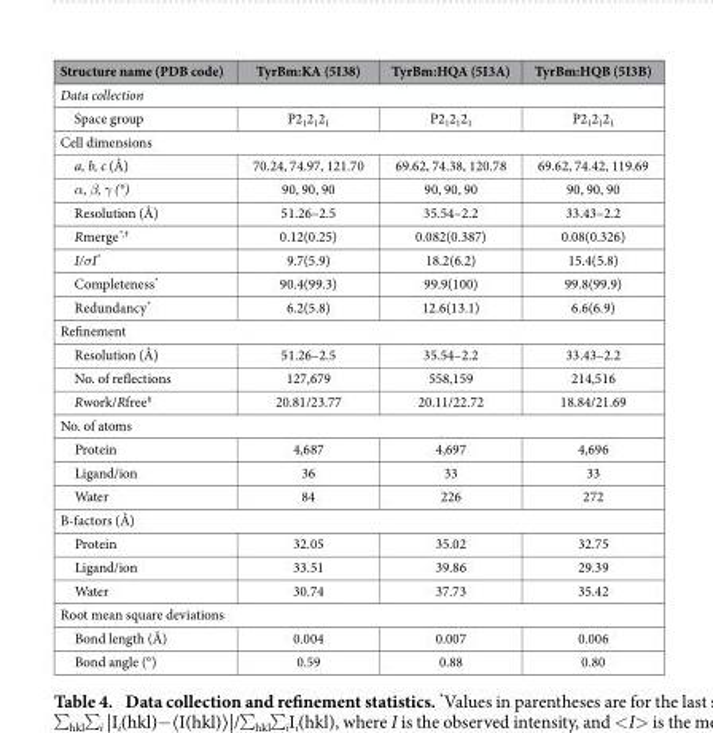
<table><thead><tr><td>Structure name (PDB code)</td><td>TyrBm:KA (5I38)</td><td>TyrBm:HQA (5I3A)</td><td>TyrBm:HQB (5I3B)</td></tr></thead><tbody><tr><td colspan="4">Data collection</td></tr><tr><td>Space group</td><td>P2<sub>1</sub>2<sub>1</sub>2<sub>1</sub></td><td>P2<sub>1</sub>2<sub>1</sub>2<sub>1</sub></td><td>P2<sub>1</sub>2<sub>1</sub>2<sub>1</sub></td></tr><tr><td colspan="4">Cell dimensions</td></tr><tr><td>a, b, c (Å)</td><td>70.24, 74.97, 121.70</td><td>69.62, 74.38, 120.78</td><td>69.62, 74.42, 119.69</td></tr><tr><td>α, β, γ (°)</td><td>90, 90, 90</td><td>90, 90, 90</td><td>90, 90, 90</td></tr><tr><td>Resolution (Å)</td><td>51.26–2.5</td><td>35.54–2.2</td><td>33.43–2.2</td></tr><tr><td>Rmerge*,†</td><td>0.12(0.25)</td><td>0.082(0.387)</td><td>0.08(0.326)</td></tr><tr><td>I/σI*</td><td>9.7(5.9)</td><td>18.2(6.2)</td><td>15.4(5.8)</td></tr><tr><td>Completeness*</td><td>90.4(99.3)</td><td>99.9(100)</td><td>99.8(99.9)</td></tr><tr><td>Redundancy*</td><td>6.2(5.8)</td><td>12.6(13.1)</td><td>6.6(6.9)</td></tr><tr><td colspan="4">Refinement</td></tr><tr><td>Resolution (Å)</td><td>51.26–2.5</td><td>35.54–2.2</td><td>33.43–2.2</td></tr><tr><td>No. of reflections</td><td>127,679</td><td>558,159</td><td>214,516</td></tr><tr><td>Rwork/Rfree‡</td><td>20.81/23.77</td><td>20.11/22.72</td><td>18.84/21.69</td></tr><tr><td colspan="4">No. of atoms</td></tr><tr><td>Protein</td><td>4,687</td><td>4,697</td><td>4,696</td></tr><tr><td>Ligand/ion</td><td>36</td><td>33</td><td>33</td></tr><tr><td>Water</td><td>84</td><td>226</td><td>272</td></tr><tr><td colspan="4">B-factors (Å)</td></tr><tr><td>Protein</td><td>32.05</td><td>35.02</td><td>32.75</td></tr><tr><td>Ligand/ion</td><td>33.51</td><td>39.86</td><td>29.39</td></tr><tr><td>Water</td><td>30.74</td><td>37.73</td><td>35.42</td></tr><tr><td colspan="4">Root mean square deviations</td></tr><tr><td>Bond length (Å)</td><td>0.004</td><td>0.007</td><td>0.006</td></tr><tr><td>Bond angle (°)</td><td>0.59</td><td>0.88</td><td>0.80</td></tr></tbody></table>